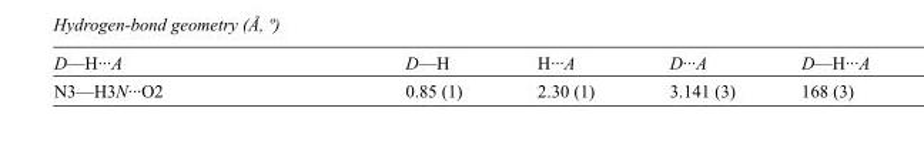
<table><tbody><tr><td>D—H···A</td><td>D—H</td><td>H···A</td><td>D···A</td><td>D—H···A</td></tr><tr><td>N3—H3N···O2</td><td>0.85 (1)</td><td>2.30 (1)</td><td>3.141 (3)</td><td>168 (3)</td></tr></tbody></table>